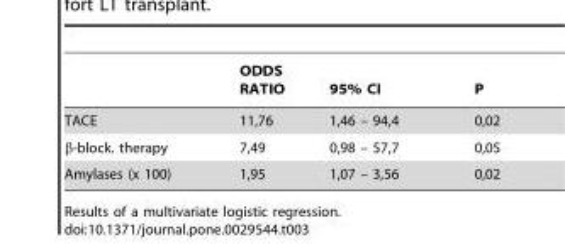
<table><thead><tr><td></td><td>ODDS RATIO</td><td>95% CI</td><td>P</td></tr></thead><tbody><tr><td>TACE</td><td>11,76</td><td>1,46 – 94,4</td><td>0,02</td></tr><tr><td>β-block. therapy</td><td>7,49</td><td>0,98 – 57,7</td><td>0,05</td></tr><tr><td>Amylases (x 100)</td><td>1,95</td><td>1,07 – 3,56</td><td>0,02</td></tr></tbody></table>